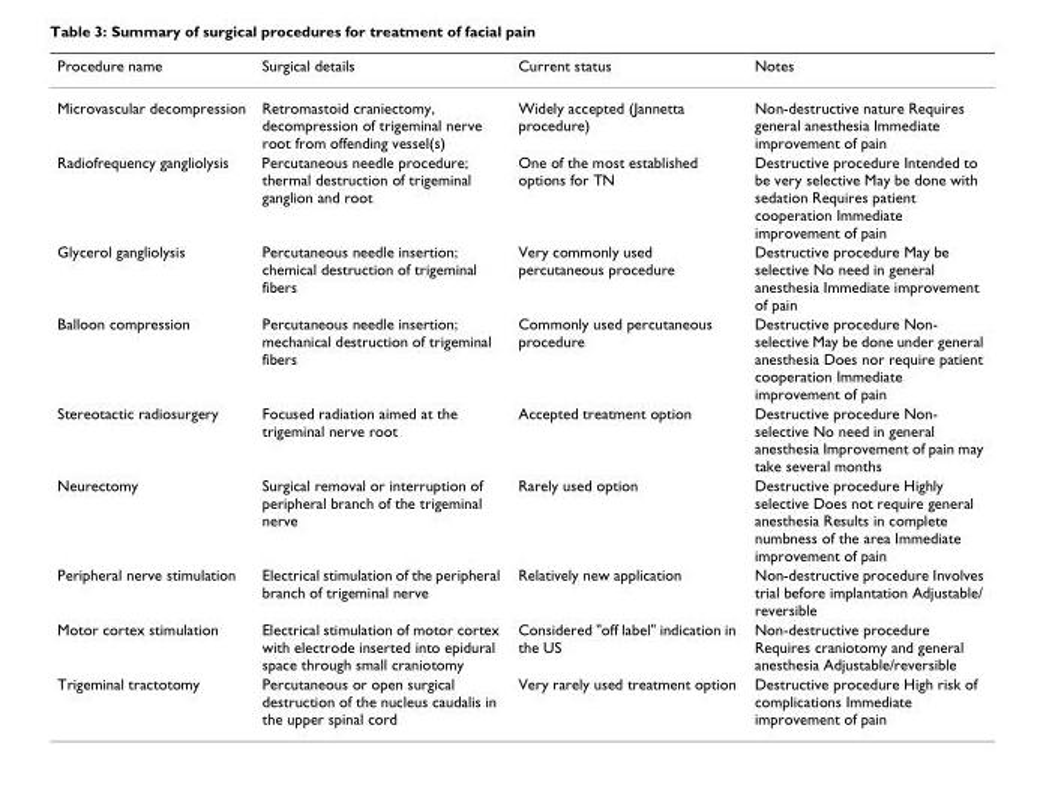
<table><thead><tr><td>Procedure name</td><td>Surgical details</td><td>Current status</td><td>Notes</td></tr></thead><tbody><tr><td>Microvascular decompression</td><td>Retromastoid craniectomy, decompression of trigeminal nerve root from offending vessel(s)</td><td>Widely accepted (Jannetta procedure)</td><td>Non-destructive nature Requires general anesthesia Immediate improvement of pain</td></tr><tr><td>Radiofrequency gangliolysis</td><td>Percutaneous needle procedure; thermal destruction of trigeminal ganglion and root</td><td>One of the most established options for TN</td><td>Destructive procedure Intended to be very selective May be done with sedation Requires patient cooperation Immediate improvement of pain</td></tr><tr><td>Glycerol gangliolysis</td><td>Percutaneous needle insertion; chemical destruction of trigeminal fibers</td><td>Very commonly used percutaneous procedure</td><td>Destructive procedure May be selective No need in general anesthesia Immediate improvement of pain</td></tr><tr><td>Balloon compression</td><td>Percutaneous needle insertion; mechanical destruction of trigeminal fibers</td><td>Commonly used percutaneous procedure</td><td>Destructive procedure Non- selective May be done under general anesthesia Does nor require patient cooperation Immediate improvement of pain</td></tr><tr><td>Stereotactic radiosurgery</td><td>Focused radiation aimed at the trigeminal nerve root</td><td>Accepted treatment option</td><td>Destructive procedure Non- selective No need in general anesthesia Improvement of pain may take several months</td></tr><tr><td>Neurectomy</td><td>Surgical removal or interruption of peripheral branch of the trigeminal nerve</td><td>Rarely used option</td><td>Destructive procedure Highly selective Does not require general anesthesia Results in complete numbness of the area Immediate improvement of pain</td></tr><tr><td>Peripheral nerve stimulation</td><td>Electrical stimulation of the peripheral branch of trigeminal nerve</td><td>Relatively new application</td><td>Non-destructive procedure Involves trial before implantation Adjustable/ reversible</td></tr><tr><td>Motor cortex stimulation</td><td>Electrical stimulation of motor cortex with electrode inserted into epidural space through small craniotomy</td><td>Considered &quot;off label&quot; indication in the US</td><td>Non-destructive procedure Requires craniotomy and general anesthesia Adjustable/reversible</td></tr><tr><td>Trigeminal tractotomy</td><td>Percutaneous or open surgical destruction of the nucleus caudalis in the upper spinal cord</td><td>Very rarely used treatment option</td><td>Destructive procedure High risk of complications Immediate improvement of pain</td></tr></tbody></table>